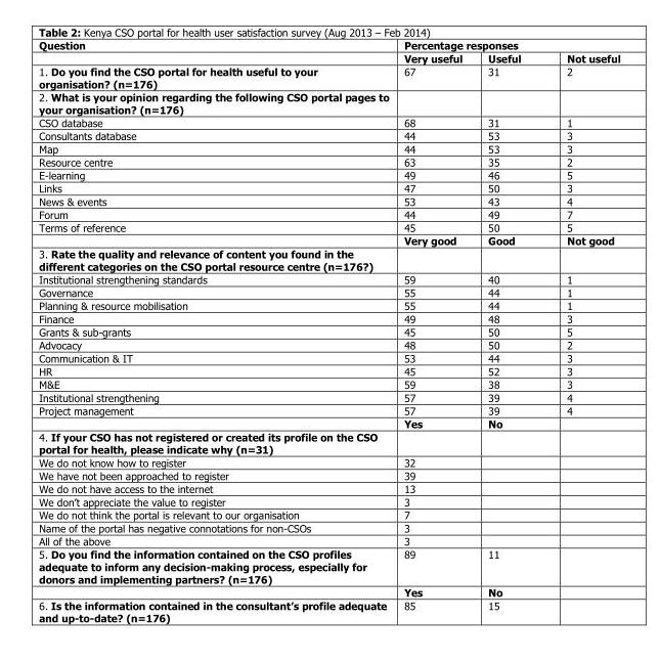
<table><thead><tr><td rowspan="2">Question</td><td colspan="3">Percentage responses</td></tr><tr><td>Very useful</td><td>Useful</td><td>Not useful</td></tr></thead><tbody><tr><td>1. Do you find the CSO portal for health useful to your organisation? (n=176)</td><td>67</td><td>31</td><td>2</td></tr><tr><td colspan="4">2. What is your opinion regarding the following CSO portal pages to your organisation? (n=176)</td></tr><tr><td>CSO database</td><td>68</td><td>31</td><td>1</td></tr><tr><td>Consultants database</td><td>44</td><td>53</td><td>3</td></tr><tr><td>Map</td><td>44</td><td>53</td><td>3</td></tr><tr><td>Resource centre</td><td>63</td><td>35</td><td>2</td></tr><tr><td>E-learning</td><td>49</td><td>46</td><td>5</td></tr><tr><td>Links</td><td>47</td><td>50</td><td>3</td></tr><tr><td>News &amp; events</td><td>53</td><td>43</td><td>4</td></tr><tr><td>Forum</td><td>44</td><td>49</td><td>7</td></tr><tr><td rowspan="2">Terms of reference</td><td>45</td><td>50</td><td>5</td></tr><tr><td>Very good</td><td>Good</td><td>Not good</td></tr><tr><td colspan="4">3. Rate the quality and relevance of content you found in the different categories on the CSO portal resource centre (n=176?)</td></tr><tr><td>Institutional strengthening standards</td><td>59</td><td>40</td><td>1</td></tr><tr><td>Governance</td><td>55</td><td>44</td><td>1</td></tr><tr><td>Planning &amp; resource mobilisation</td><td>55</td><td>44</td><td>1</td></tr><tr><td>Finance</td><td>49</td><td>48</td><td>3</td></tr><tr><td>Grants &amp; sub-grants</td><td>45</td><td>50</td><td>5</td></tr><tr><td>Advocacy</td><td>48</td><td>50</td><td>2</td></tr><tr><td>Communication &amp; IT</td><td>53</td><td>44</td><td>3</td></tr><tr><td>HR</td><td>45</td><td>52</td><td>3</td></tr><tr><td>M&amp;E</td><td>59</td><td>38</td><td>3</td></tr><tr><td>Institutional strengthening</td><td>57</td><td>39</td><td>4</td></tr><tr><td rowspan="2">Project management</td><td>57</td><td>39</td><td>4</td></tr><tr><td>Yes</td><td>No</td><td></td></tr><tr><td colspan="4">4. If your CSO has not registered or created its profile on the CSO portal for health, please indicate why (n=31)</td></tr><tr><td>We do not know how to register</td><td>32</td><td></td><td></td></tr><tr><td>We have not been approached to register</td><td>39</td><td></td><td></td></tr><tr><td>We do not have access to the internet</td><td>13</td><td></td><td></td></tr><tr><td>We don’t appreciate the value to register</td><td>3</td><td></td><td></td></tr><tr><td>We do not think the portal is relevant to our organisation</td><td>7</td><td></td><td></td></tr><tr><td>Name of the portal has negative connotations for non-CSOs</td><td>3</td><td></td><td></td></tr><tr><td>All of the above</td><td>3</td><td></td><td></td></tr><tr><td rowspan="2">5. Do you find the information contained on the CSO profiles adequate to inform any decision-making process, especially for donors and implementing partners? (n=176)</td><td>89</td><td>11</td><td></td></tr><tr><td>Yes</td><td>No</td><td></td></tr><tr><td>6. Is the information contained in the consultant’s profile adequate and up-to-date? (n=176)</td><td>85</td><td>15</td><td></td></tr></tbody></table>